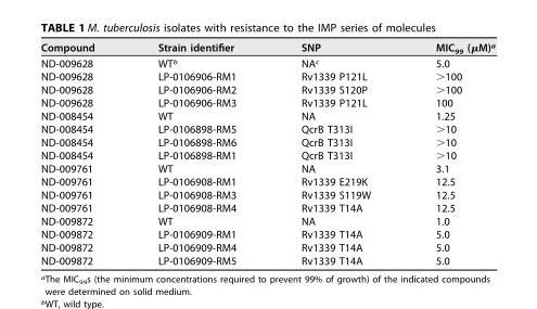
<table><thead><tr><td>Compound</td><td>Strain identifier</td><td>SNP</td><td>MIC<sub>99</sub> (μM)<sup>a</sup></td></tr></thead><tbody><tr><td>ND-009628</td><td>WT<sup>b</sup></td><td>NA<sup>c</sup></td><td>5.0</td></tr><tr><td>ND-009628</td><td>LP-0106906-RM1</td><td>Rv1339 P121L</td><td>&gt;100</td></tr><tr><td>ND-009628</td><td>LP-0106906-RM2</td><td>Rv1339 S120P</td><td>&gt;100</td></tr><tr><td>ND-009628</td><td>LP-0106906-RM3</td><td>Rv1339 P121L</td><td>100</td></tr><tr><td>ND-008454</td><td>WT</td><td>NA</td><td>1.25</td></tr><tr><td>ND-008454</td><td>LP-0106898-RM5</td><td>QcrB T313I</td><td>&gt;10</td></tr><tr><td>ND-008454</td><td>LP-0106898-RM6</td><td>QcrB T313I</td><td>&gt;10</td></tr><tr><td>ND-008454</td><td>LP-0106898-RM1</td><td>QcrB T313I</td><td>&gt;10</td></tr><tr><td>ND-009761</td><td>WT</td><td>NA</td><td>3.1</td></tr><tr><td>ND-009761</td><td>LP-0106908-RM1</td><td>Rv1339 E219K</td><td>12.5</td></tr><tr><td>ND-009761</td><td>LP-0106908-RM3</td><td>Rv1339 S119W</td><td>12.5</td></tr><tr><td>ND-009761</td><td>LP-0106908-RM4</td><td>Rv1339 T14A</td><td>12.5</td></tr><tr><td>ND-009872</td><td>WT</td><td>NA</td><td>1.0</td></tr><tr><td>ND-009872</td><td>LP-0106909-RM1</td><td>Rv1339 T14A</td><td>5.0</td></tr><tr><td>ND-009872</td><td>LP-0106909-RM4</td><td>Rv1339 T14A</td><td>5.0</td></tr><tr><td>ND-009872</td><td>LP-0106909-RM5</td><td>Rv1339 T14A</td><td>5.0</td></tr></tbody></table>